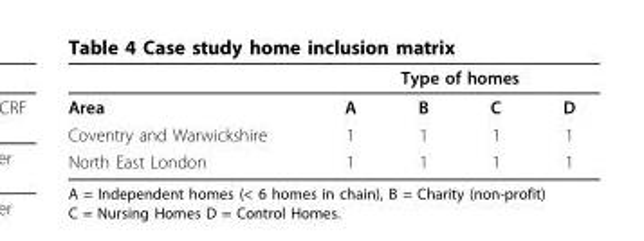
<table><thead><tr><td rowspan="2">Area</td><td colspan="4">Type of homes</td></tr><tr><td>A</td><td>B</td><td>C</td><td>D</td></tr></thead><tbody><tr><td>Coventry and Warwickshire</td><td>1</td><td>1</td><td>1</td><td>1</td></tr><tr><td>North East London</td><td>1</td><td>1</td><td>1</td><td>1</td></tr></tbody></table>